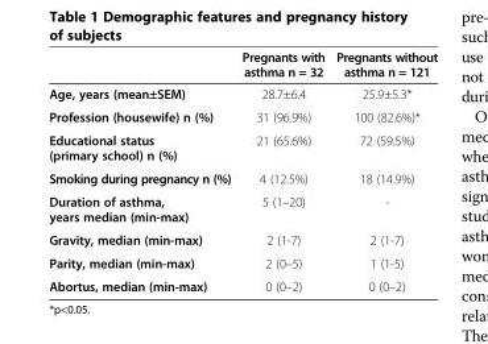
<table><thead><tr><td></td><td>Pregnants with asthma n = 32</td><td>Pregnants without asthma n = 121</td></tr></thead><tbody><tr><td>Age, years (mean±SEM)</td><td>28.7±6.4</td><td>25.9±5.3*</td></tr><tr><td>Profession (housewife) n (%)</td><td>31 (96.9%)</td><td>100 (82.6%)*</td></tr><tr><td>Educational status (primary school) n (%)</td><td>21 (65.6%)</td><td>72 (59.5%)</td></tr><tr><td>Smoking during pregnancy n (%)</td><td>4 (12.5%)</td><td>18 (14.9%)</td></tr><tr><td>Duration of asthma, years median (min-max)</td><td>5 (1–20)</td><td>-</td></tr><tr><td>Gravity, median (min-max)</td><td>2 (1-7)</td><td>2 (1-7)</td></tr><tr><td>Parity, median (min-max)</td><td>2 (0–5)</td><td>1 (1-5)</td></tr><tr><td>Abortus, median (min-max)</td><td>0 (0–2)</td><td>0 (0–2)</td></tr></tbody></table>